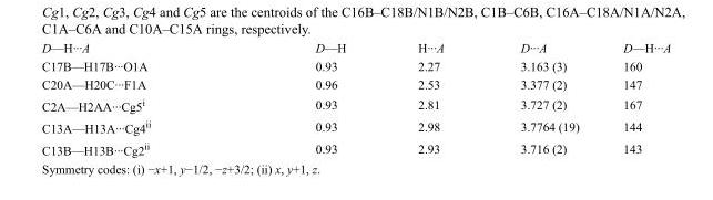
<table><tbody><tr><td>D—H···A</td><td>D—H</td><td>H···A</td><td>D···A</td><td>D—H···A</td></tr><tr><td>C17B—H17B···O1A</td><td>0.93</td><td>2.27</td><td>3.163 (3)</td><td>160</td></tr><tr><td>C20A—H20C···F1A</td><td>0.96</td><td>2.53</td><td>3.377 (2)</td><td>147</td></tr><tr><td>C2A—H2AA···Cg5<sup>i</sup></td><td>0.93</td><td>2.81</td><td>3.727 (2)</td><td>167</td></tr><tr><td>C13A—H13A···Cg4<sup>ii</sup></td><td>0.93</td><td>2.98</td><td>3.7764 (19)</td><td>144</td></tr><tr><td>C13B—H13B···Cg2<sup>ii</sup></td><td>0.93</td><td>2.93</td><td>3.716 (2)</td><td>143</td></tr></tbody></table>